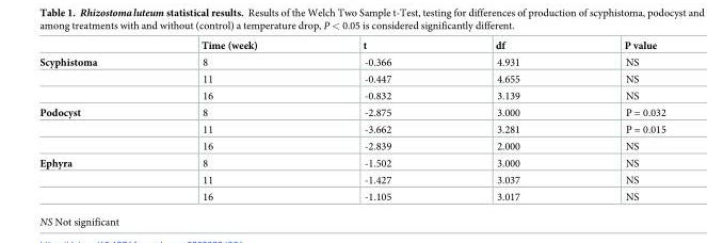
<table><thead><tr><td></td><td>Time (week)</td><td>t</td><td>df</td><td>P value</td></tr></thead><tbody><tr><td rowspan="3">Scyphistoma</td><td>8</td><td>-0.366</td><td>4.931</td><td>NS</td></tr><tr><td>11</td><td>-0.447</td><td>4.655</td><td>NS</td></tr><tr><td>16</td><td>-0.832</td><td>3.139</td><td>NS</td></tr><tr><td rowspan="3">Podocyst</td><td>8</td><td>-2.875</td><td>3.000</td><td>P = 0.032</td></tr><tr><td>11</td><td>-3.662</td><td>3.281</td><td>P = 0.015</td></tr><tr><td>16</td><td>-2.839</td><td>2.000</td><td>NS</td></tr><tr><td rowspan="3">Ephyra</td><td>8</td><td>-1.502</td><td>3.000</td><td>NS</td></tr><tr><td>11</td><td>-1.427</td><td>3.037</td><td>NS</td></tr><tr><td>16</td><td>-1.105</td><td>3.017</td><td>NS</td></tr></tbody></table>